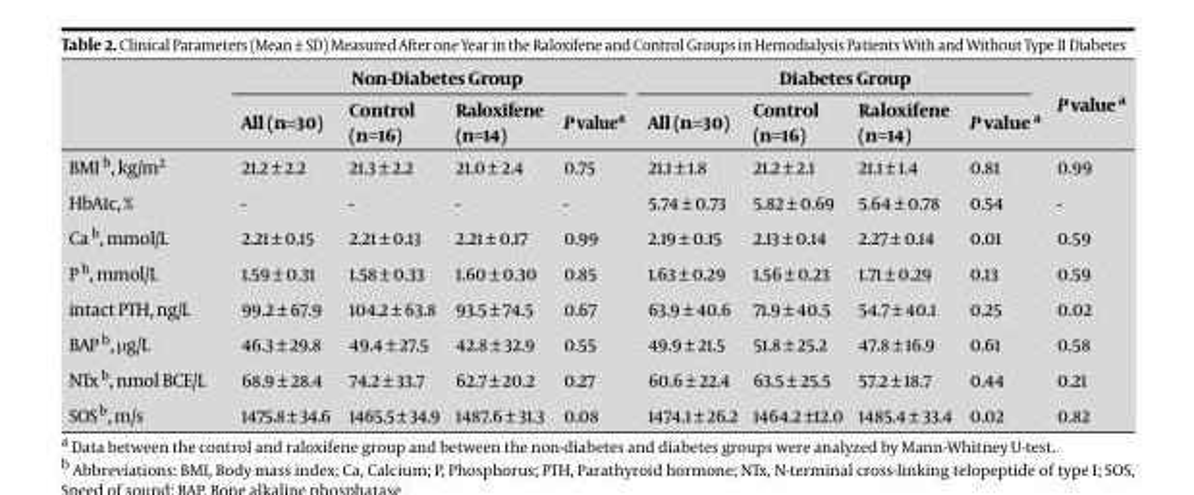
<table><thead><tr><td rowspan="2"></td><td colspan="4">Non-Diabetes Group</td><td colspan="4">Diabetes Group</td><td rowspan="2">P value a</td></tr><tr><td>All (n=30)</td><td>Control (n=16)</td><td>Raloxifene (n=14)</td><td>P valuea</td><td>All (n=30)</td><td>Control (n=16)</td><td>Raloxifene (n=14)</td><td>P value a</td></tr></thead><tbody><tr><td>BMI b, kg/m<sup>2</sup></td><td>21.2 ± 2.2</td><td>21.3 ± 2.2</td><td>21.0 ± 2.4</td><td>0.75</td><td>21.1 ± 1.8</td><td>21.2 ± 2.1</td><td>21.1 ± 1.4</td><td>0.81</td><td>0.99</td></tr><tr><td>HbA1c, %</td><td>-</td><td>-</td><td>-</td><td>-</td><td>5.74 ± 0.73</td><td>5.82 ± 0.69</td><td>5.64 ± 0.78</td><td>0.54</td><td>-</td></tr><tr><td>Ca b, mmol/L</td><td>2.21 ± 0.15</td><td>2.21 ± 0.13</td><td>2.21 ± 0.17</td><td>0.99</td><td>2.19 ± 0.15</td><td>2.13 ± 0.14</td><td>2.27 ± 0.14</td><td>0.01</td><td>0.59</td></tr><tr><td>P b, mmol/L</td><td>1.59 ± 0.31</td><td>1.58 ± 0.33</td><td>1.60 ± 0.30</td><td>0.85</td><td>1.63 ± 0.29</td><td>1.56 ± 0.23</td><td>1.71 ± 0.29</td><td>0.13</td><td>0.59</td></tr><tr><td>intact PTH, ng/L</td><td>99.2 ± 67.9</td><td>104.2 ± 63.8</td><td>93.5 ± 74.5</td><td>0.67</td><td>63.9 ± 40.6</td><td>71.9 ± 40.5</td><td>54.7 ± 40.1</td><td>0.25</td><td>0.02</td></tr><tr><td>BAP b, µg/L</td><td>46.3 ± 29.8</td><td>49.4 ± 27.5</td><td>42.8 ± 32.9</td><td>0.55</td><td>49.9 ± 21.5</td><td>51.8 ± 25.2</td><td>47.8 ± 16.9</td><td>0.61</td><td>0.58</td></tr><tr><td>NTx b, nmol BCE/L</td><td>68.9 ± 28.4</td><td>74.2 ± 33.7</td><td>62.7 ± 20.2</td><td>0.27</td><td>60.6 ± 22.4</td><td>63.5 ± 25.5</td><td>57.2 ± 18.7</td><td>0.44</td><td>0.21</td></tr><tr><td>SOS b, m/s</td><td>1475.8 ± 34.6</td><td>1465.5 ± 34.9</td><td>1487.6 ± 31.3</td><td>0.08</td><td>1474.1 ± 26.2</td><td>1464.2 ±12.0</td><td>1485.4 ± 33.4</td><td>0.02</td><td>0.82</td></tr></tbody></table>